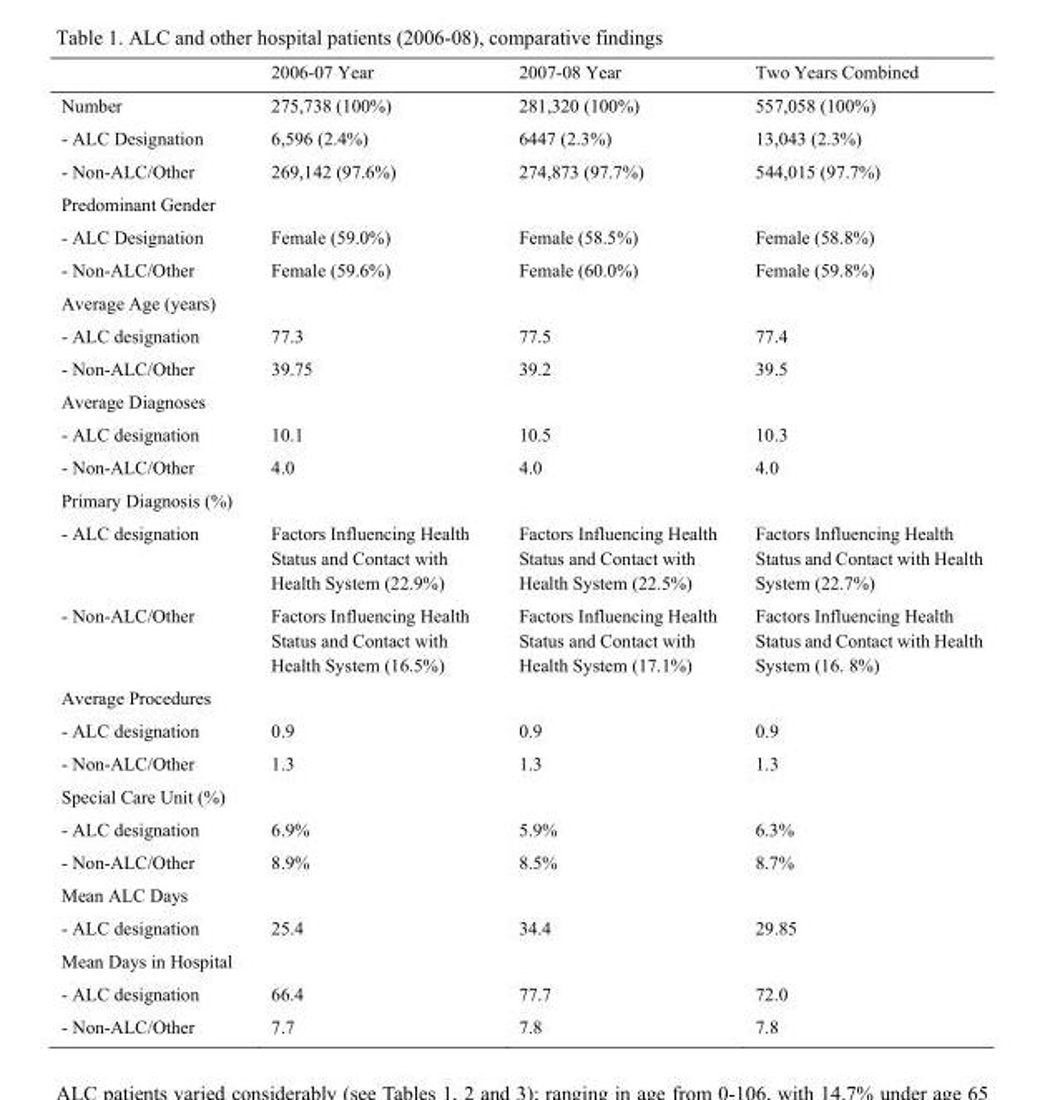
<table><thead><tr><td></td><td>2006-07 Year</td><td>2007-08 Year</td><td>Two Years Combined</td></tr></thead><tbody><tr><td>Number</td><td>275,738 (100%)</td><td>281,320 (100%)</td><td>557,058 (100%)</td></tr><tr><td>- ALC Designation</td><td>6,596 (2.4%)</td><td>6447 (2.3%)</td><td>13,043 (2.3%)</td></tr><tr><td>- Non-ALC/Other</td><td>269,142 (97.6%)</td><td>274,873 (97.7%)</td><td>544,015 (97.7%)</td></tr><tr><td colspan="4">Predominant Gender</td></tr><tr><td>- ALC Designation</td><td>Female (59.0%)</td><td>Female (58.5%)</td><td>Female (58.8%)</td></tr><tr><td>- Non-ALC/Other</td><td>Female (59.6%)</td><td>Female (60.0%)</td><td>Female (59.8%)</td></tr><tr><td colspan="4">Average Age (years)</td></tr><tr><td>- ALC designation</td><td>77.3</td><td>77.5</td><td>77.4</td></tr><tr><td>- Non-ALC/Other</td><td>39.75</td><td>39.2</td><td>39.5</td></tr><tr><td colspan="4">Average Diagnoses</td></tr><tr><td>- ALC designation</td><td>10.1</td><td>10.5</td><td>10.3</td></tr><tr><td>- Non-ALC/Other</td><td>4.0</td><td>4.0</td><td>4.0</td></tr><tr><td colspan="4">Primary Diagnosis (%)</td></tr><tr><td>- ALC designation</td><td>Factors Influencing Health Status and Contact with Health System (22.9%)</td><td>Factors Influencing Health Status and Contact with Health System (22.5%)</td><td>Factors Influencing Health Status and Contact with Health System (22.7%)</td></tr><tr><td>- Non-ALC/Other</td><td>Factors Influencing Health Status and Contact with Health System (16.5%)</td><td>Factors Influencing Health Status and Contact with Health System (17.1%)</td><td>Factors Influencing Health Status and Contact with Health System (16. 8%)</td></tr><tr><td colspan="4">Average Procedures</td></tr><tr><td>- ALC designation</td><td>0.9</td><td>0.9</td><td>0.9</td></tr><tr><td>- Non-ALC/Other</td><td>1.3</td><td>1.3</td><td>1.3</td></tr><tr><td colspan="4">Special Care Unit (%)</td></tr><tr><td>- ALC designation</td><td>6.9%</td><td>5.9%</td><td>6.3%</td></tr><tr><td>- Non-ALC/Other</td><td>8.9%</td><td>8.5%</td><td>8.7%</td></tr><tr><td colspan="4">Mean ALC Days</td></tr><tr><td>- ALC designation</td><td>25.4</td><td>34.4</td><td>29.85</td></tr><tr><td colspan="4">Mean Days in Hospital</td></tr><tr><td>- ALC designation</td><td>66.4</td><td>77.7</td><td>72.0</td></tr><tr><td>- Non-ALC/Other</td><td>7.7</td><td>7.8</td><td>7.8</td></tr></tbody></table>